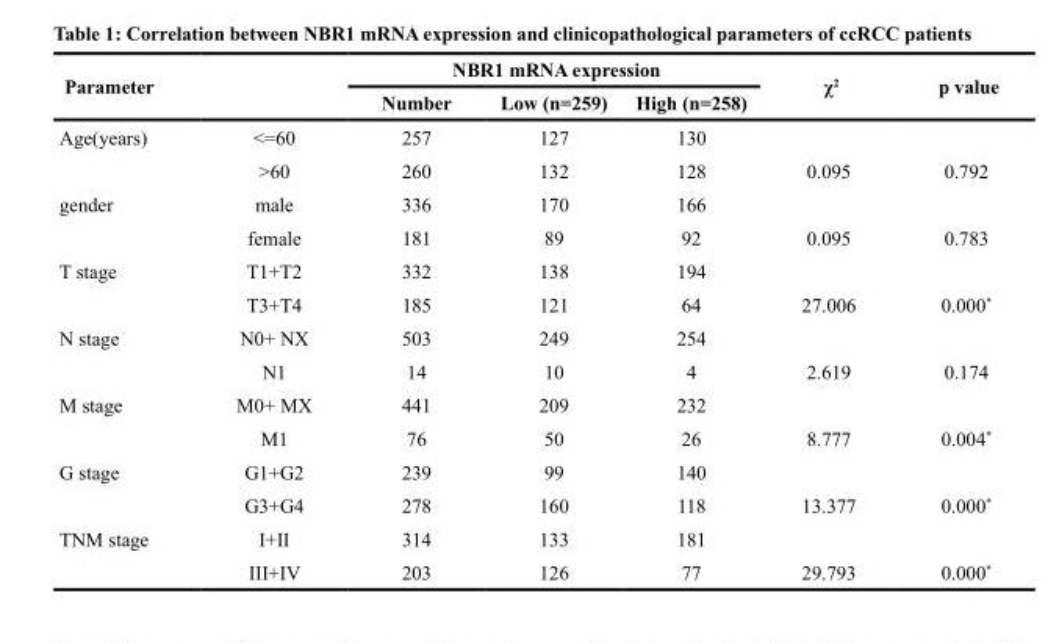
<table><thead><tr><td rowspan="2">Parameter</td><td rowspan="2"></td><td colspan="3">NBR1 mRNA expression</td><td rowspan="2">χ<sup>2</sup></td><td rowspan="2">p value</td></tr><tr><td>Number</td><td>Low (n=259)</td><td>High (n=258)</td></tr></thead><tbody><tr><td rowspan="2">Age(years)</td><td>&lt;=60</td><td>257</td><td>127</td><td>130</td><td></td><td></td></tr><tr><td>&gt;60</td><td>260</td><td>132</td><td>128</td><td>0.095</td><td>0.792</td></tr><tr><td rowspan="2">gender</td><td>male</td><td>336</td><td>170</td><td>166</td><td></td><td></td></tr><tr><td>female</td><td>181</td><td>89</td><td>92</td><td>0.095</td><td>0.783</td></tr><tr><td rowspan="2">T stage</td><td>T1+T2</td><td>332</td><td>138</td><td>194</td><td></td><td></td></tr><tr><td>T3+T4</td><td>185</td><td>121</td><td>64</td><td>27.006</td><td>0.000*</td></tr><tr><td rowspan="2">N stage</td><td>N0+ NX</td><td>503</td><td>249</td><td>254</td><td></td><td></td></tr><tr><td>N1</td><td>14</td><td>10</td><td>4</td><td>2.619</td><td>0.174</td></tr><tr><td rowspan="2">M stage</td><td>M0+ MX</td><td>441</td><td>209</td><td>232</td><td></td><td></td></tr><tr><td>M1</td><td>76</td><td>50</td><td>26</td><td>8.777</td><td>0.004*</td></tr><tr><td rowspan="2">G stage</td><td>G1+G2</td><td>239</td><td>99</td><td>140</td><td></td><td></td></tr><tr><td>G3+G4</td><td>278</td><td>160</td><td>118</td><td>13.377</td><td>0.000*</td></tr><tr><td rowspan="2">TNM stage</td><td>I+II</td><td>314</td><td>133</td><td>181</td><td></td><td></td></tr><tr><td>III+IV</td><td>203</td><td>126</td><td>77</td><td>29.793</td><td>0.000*</td></tr></tbody></table>